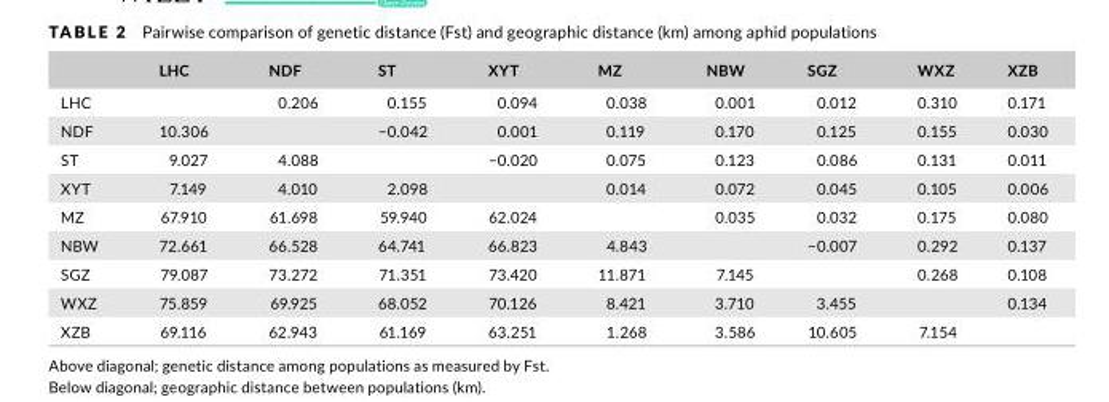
<table><thead><tr><td></td><td>LHC</td><td>NDF</td><td>ST</td><td>XYT</td><td>MZ</td><td>NBW</td><td>SGZ</td><td>WXZ</td><td>XZB</td></tr></thead><tbody><tr><td>LHC</td><td></td><td>0.206</td><td>0.155</td><td>0.094</td><td>0.038</td><td>0.001</td><td>0.012</td><td>0.310</td><td>0.171</td></tr><tr><td>NDF</td><td>10.306</td><td></td><td>−0.042</td><td>0.001</td><td>0.119</td><td>0.170</td><td>0.125</td><td>0.155</td><td>0.030</td></tr><tr><td>ST</td><td>9.027</td><td>4.088</td><td></td><td>−0.020</td><td>0.075</td><td>0.123</td><td>0.086</td><td>0.131</td><td>0.011</td></tr><tr><td>XYT</td><td>7.149</td><td>4.010</td><td>2.098</td><td></td><td>0.014</td><td>0.072</td><td>0.045</td><td>0.105</td><td>0.006</td></tr><tr><td>MZ</td><td>67.910</td><td>61.698</td><td>59.940</td><td>62.024</td><td></td><td>0.035</td><td>0.032</td><td>0.175</td><td>0.080</td></tr><tr><td>NBW</td><td>72.661</td><td>66.528</td><td>64.741</td><td>66.823</td><td>4.843</td><td></td><td>−0.007</td><td>0.292</td><td>0.137</td></tr><tr><td>SGZ</td><td>79.087</td><td>73.272</td><td>71.351</td><td>73.420</td><td>11.871</td><td>7.145</td><td></td><td>0.268</td><td>0.108</td></tr><tr><td>WXZ</td><td>75.859</td><td>69.925</td><td>68.052</td><td>70.126</td><td>8.421</td><td>3.710</td><td>3.455</td><td></td><td>0.134</td></tr><tr><td>XZB</td><td>69.116</td><td>62.943</td><td>61.169</td><td>63.251</td><td>1.268</td><td>3.586</td><td>10.605</td><td>7.154</td><td></td></tr></tbody></table>